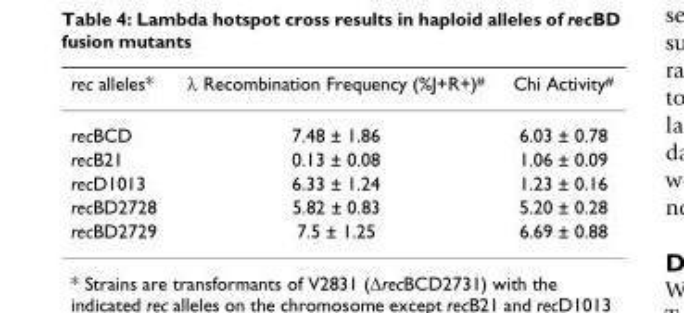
<table><thead><tr><td>rec alleles*</td><td>λ Recombination Frequency (%J+R+)<sup>#</sup></td><td>Chi Activity<sup>#</sup></td></tr></thead><tbody><tr><td>recBCD</td><td>7.48 ± 1.86</td><td>6.03 ± 0.78</td></tr><tr><td>recB21</td><td>0.13 ± 0.08</td><td>1.06 ± 0.09</td></tr><tr><td>recD1013</td><td>6.33 ± 1.24</td><td>1.23 ± 0.16</td></tr><tr><td>recBD2728</td><td>5.82 ± 0.83</td><td>5.20 ± 0.28</td></tr><tr><td>recBD2729</td><td>7.5 ± 1.25</td><td>6.69 ± 0.88</td></tr></tbody></table>